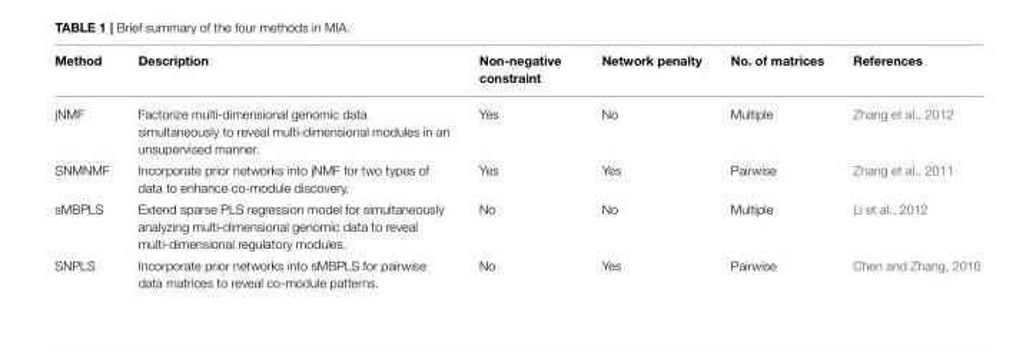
<table><thead><tr><td>Method</td><td>Description</td><td>Non-negative constraint</td><td>Network penalty</td><td>No. of matrices</td><td>References</td></tr></thead><tbody><tr><td>jNMF</td><td>Factorize multi-dimensional genomic data simultaneously to reveal multi-dimensional modules in an unsupervised manner.</td><td>Yes</td><td>No</td><td>Multiple</td><td>Zhang et al., 2012</td></tr><tr><td>SNMNMF</td><td>Incorporate prior networks into jNMF for two types of data to enhance co-module discovery.</td><td>Yes</td><td>Yes</td><td>Pairwise</td><td>Zhang et al., 2011</td></tr><tr><td>sMBPLS</td><td>Extend sparse PLS regression model for simultaneously analyzing multi-dimensional genomic data to reveal multi-dimensional regulatory modules.</td><td>No</td><td>No</td><td>Multiple</td><td>Li et al., 2012</td></tr><tr><td>SNPLS</td><td>Incorporate prior networks into sMBPLS for pairwise data matrices to reveal co-module patterns.</td><td>No</td><td>Yes</td><td>Pairwise</td><td>Chen and Zhang, 2016</td></tr></tbody></table>